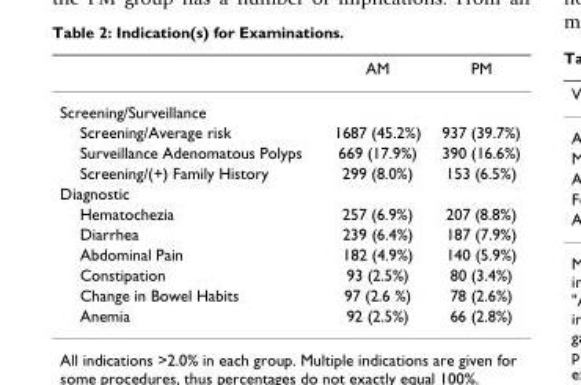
<table><thead><tr><td></td><td>AM</td><td>PM</td></tr></thead><tbody><tr><td colspan="3">Screening/Surveillance</td></tr><tr><td>Screening/Average risk</td><td>1687 (45.2%)</td><td>937 (39.7%)</td></tr><tr><td>Surveillance Adenomatous Polyps</td><td>669 (17.9%)</td><td>390 (16.6%)</td></tr><tr><td>Screening/(+) Family History</td><td>299 (8.0%)</td><td>153 (6.5%)</td></tr><tr><td colspan="3">Diagnostic</td></tr><tr><td>Hematochezia</td><td>257 (6.9%)</td><td>207 (8.8%)</td></tr><tr><td>Diarrhea</td><td>239 (6.4%)</td><td>187 (7.9%)</td></tr><tr><td>Abdominal Pain</td><td>182 (4.9%)</td><td>140 (5.9%)</td></tr><tr><td>Constipation</td><td>93 (2.5%)</td><td>80 (3.4%)</td></tr><tr><td>Change in Bowel Habits</td><td>97 (2.6 %)</td><td>78 (2.6%)</td></tr><tr><td>Anemia</td><td>92 (2.5%)</td><td>66 (2.8%)</td></tr></tbody></table>